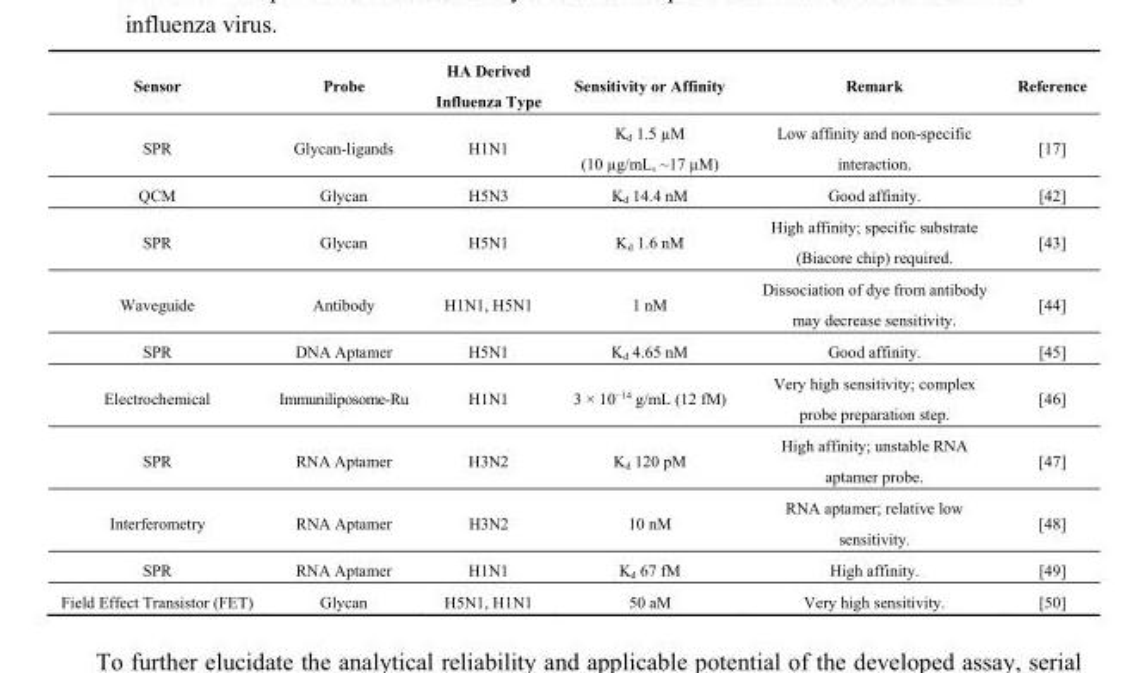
<table><thead><tr><td>Sensor</td><td>Probe</td><td>HA Derived Influenza Type</td><td>Sensitivity or Affinity</td><td>Remark</td><td>Reference</td></tr></thead><tbody><tr><td>SPR</td><td>Glycan-ligands</td><td>H1N1</td><td>K<sub>d</sub> 1.5 µM (10 µg/mL, ~17 µM)</td><td>Low affinity and non-specific interaction.</td><td>[17]</td></tr><tr><td>QCM</td><td>Glycan</td><td>H5N3</td><td>K<sub>d</sub> 14.4 nM</td><td>Good affinity.</td><td>[42]</td></tr><tr><td>SPR</td><td>Glycan</td><td>H5N1</td><td>K<sub>d</sub> 1.6 nM</td><td>High affinity; specific substrate (Biacore chip) required.</td><td>[43]</td></tr><tr><td>Waveguide</td><td>Antibody</td><td>H1N1, H5N1</td><td>1 nM</td><td>Dissociation of dye from antibody may decrease sensitivity.</td><td>[44]</td></tr><tr><td>SPR</td><td>DNA Aptamer</td><td>H5N1</td><td>K<sub>d</sub> 4.65 nM</td><td>Good affinity.</td><td>[45]</td></tr><tr><td>Electrochemical</td><td>Immuniliposome-Ru</td><td>H1N1</td><td>3 × 10<sup>−14</sup> g/mL (12 fM)</td><td>Very high sensitivity; complex probe preparation step.</td><td>[46]</td></tr><tr><td>SPR</td><td>RNA Aptamer</td><td>H3N2</td><td>K<sub>d</sub> 120 pM</td><td>High affinity; unstable RNA aptamer probe.</td><td>[47]</td></tr><tr><td>Interferometry</td><td>RNA Aptamer</td><td>H3N2</td><td>10 nM</td><td>RNA aptamer; relative low sensitivity.</td><td>[48]</td></tr><tr><td>SPR</td><td>RNA Aptamer</td><td>H1N1</td><td>K<sub>d</sub> 67 fM</td><td>High affinity.</td><td>[49]</td></tr><tr><td>Field Effect Transistor (FET)</td><td>Glycan</td><td>H5N1, H1N1</td><td>50 aM</td><td>Very high sensitivity.</td><td>[50]</td></tr></tbody></table>